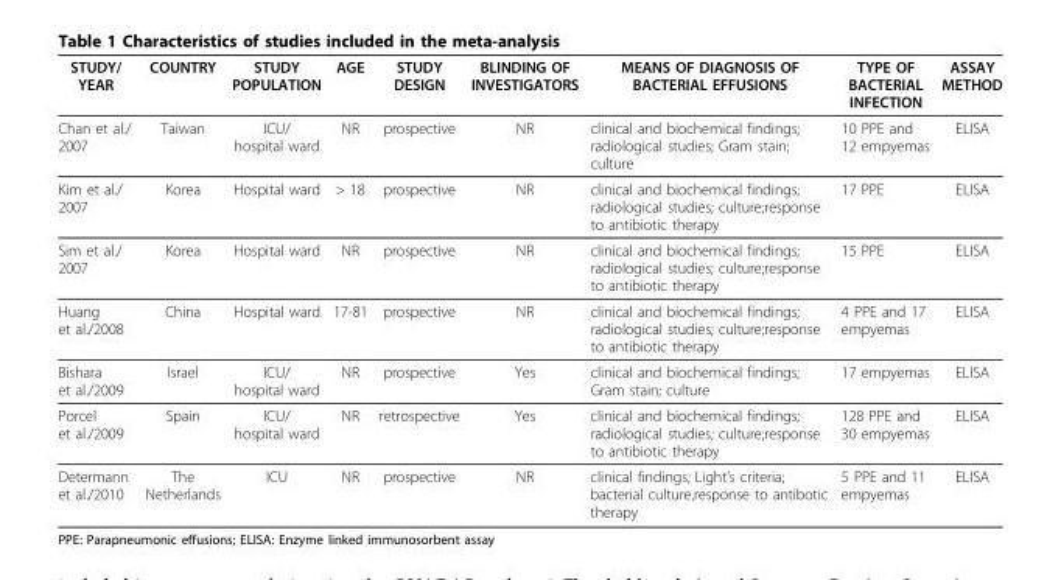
<table><thead><tr><td>STUDY/ YEAR</td><td>COUNTRY</td><td>STUDY POPULATION</td><td>AGE</td><td>STUDY DESIGN</td><td>BLINDING OF INVESTIGATORS</td><td>MEANS OF DIAGNOSIS OF BACTERIAL EFFUSIONS</td><td>TYPE OF BACTERIAL INFECTION</td><td>ASSAY METHOD</td></tr></thead><tbody><tr><td>Chan et al./ 2007</td><td>Taiwan</td><td>ICU/ hospital ward</td><td>NR</td><td>prospective</td><td>NR</td><td>clinical and biochemical findings; radiological studies; Gram stain; culture</td><td>10 PPE and 12 empyemas</td><td>ELISA</td></tr><tr><td>Kim et al./ 2007</td><td>Korea</td><td>Hospital ward</td><td>&gt; 18</td><td>prospective</td><td>NR</td><td>clinical and biochemical findings; radiological studies; culture;response to antibiotic therapy</td><td>17 PPE</td><td>ELISA</td></tr><tr><td>Sim et al./ 2007</td><td>Korea</td><td>Hospital ward</td><td>NR</td><td>prospective</td><td>NR</td><td>clinical and biochemical findings; radiological studies; culture;response to antibiotic therapy</td><td>15 PPE</td><td>ELISA</td></tr><tr><td>Huang et al./2008</td><td>China</td><td>Hospital ward</td><td>17-81</td><td>prospective</td><td>NR</td><td>clinical and biochemical findings; radiological studies; culture;response to antibiotic therapy</td><td>4 PPE and 17 empyemas</td><td>ELISA</td></tr><tr><td>Bishara et al./2009</td><td>Israel</td><td>ICU/ hospital ward</td><td>NR</td><td>prospective</td><td>Yes</td><td>clinical and biochemical findings; Gram stain; culture</td><td>17 empyemas</td><td>ELISA</td></tr><tr><td>Porcel et al./2009</td><td>Spain</td><td>ICU/ hospital ward</td><td>NR</td><td>retrospective</td><td>Yes</td><td>clinical and biochemical findings; radiological studies; culture;response to antibiotic therapy</td><td>128 PPE and 30 empyemas</td><td>ELISA</td></tr><tr><td>Determann et al./2010</td><td>The Netherlands</td><td>ICU</td><td>NR</td><td>prospective</td><td>NR</td><td>clinical findings; Light’s criteria; bacterial culture,response to antibotic therapy</td><td>5 PPE and 11 empyemas</td><td>ELISA</td></tr></tbody></table>